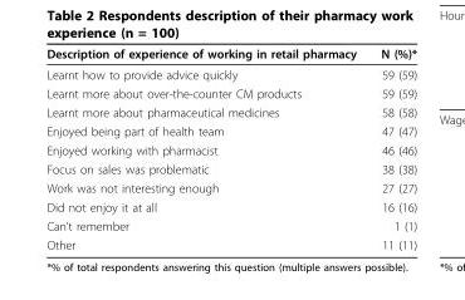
<table><thead><tr><td>Description of experience of working in retail pharmacy</td><td>N (%)*</td></tr></thead><tbody><tr><td>Learnt how to provide advice quickly</td><td>59 (59)</td></tr><tr><td>Learnt more about over-the-counter CM products</td><td>59 (59)</td></tr><tr><td>Learnt more about pharmaceutical medicines</td><td>58 (58)</td></tr><tr><td>Enjoyed being part of health team</td><td>47 (47)</td></tr><tr><td>Enjoyed working with pharmacist</td><td>46 (46)</td></tr><tr><td>Focus on sales was problematic</td><td>38 (38)</td></tr><tr><td>Work was not interesting enough</td><td>27 (27)</td></tr><tr><td>Did not enjoy it at all</td><td>16 (16)</td></tr><tr><td>Can’t remember</td><td>1 (1)</td></tr><tr><td>Other</td><td>11 (11)</td></tr></tbody></table>